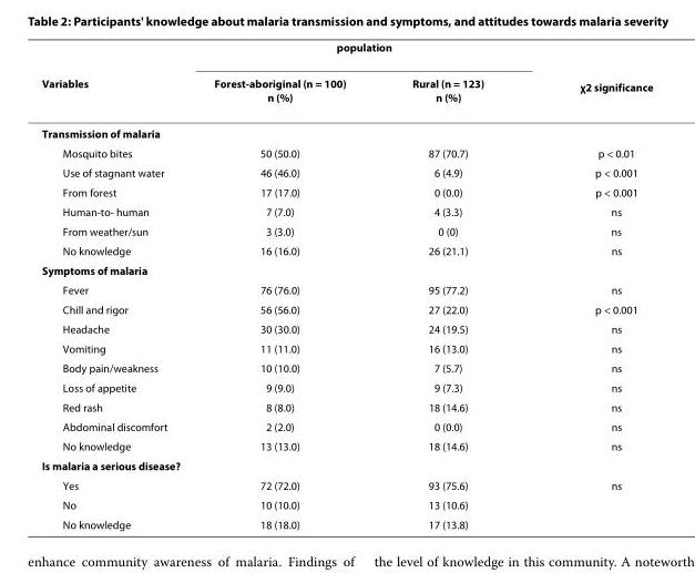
<table><thead><tr><td rowspan="2">Variables</td><td colspan="2">population</td><td rowspan="2">χ<sup>2</sup> significance</td></tr><tr><td>Forest-aboriginal (n = 100) n (%)</td><td>Rural (n = 123) n (%)</td></tr></thead><tbody><tr><td colspan="4">Transmission of malaria</td></tr><tr><td>Mosquito bites</td><td>50 (50.0)</td><td>87 (70.7)</td><td>p &lt; 0.01</td></tr><tr><td>Use of stagnant water</td><td>46 (46.0)</td><td>6 (4.9)</td><td>p &lt; 0.001</td></tr><tr><td>From forest</td><td>17 (17.0)</td><td>0 (0.0)</td><td>p &lt; 0.001</td></tr><tr><td>Human-to- human</td><td>7 (7.0)</td><td>4 (3.3)</td><td>ns</td></tr><tr><td>From weather/sun</td><td>3 (3.0)</td><td>0 (0)</td><td>ns</td></tr><tr><td>No knowledge</td><td>16 (16.0)</td><td>26 (21.1)</td><td>ns</td></tr><tr><td colspan="4">Symptoms of malaria</td></tr><tr><td>Fever</td><td>76 (76.0)</td><td>95 (77.2)</td><td>ns</td></tr><tr><td>Chill and rigor</td><td>56 (56.0)</td><td>27 (22.0)</td><td>p &lt; 0.001</td></tr><tr><td>Headache</td><td>30 (30.0)</td><td>24 (19.5)</td><td>ns</td></tr><tr><td>Vomiting</td><td>11 (11.0)</td><td>16 (13.0)</td><td>ns</td></tr><tr><td>Body pain/weakness</td><td>10 (10.0)</td><td>7 (5.7)</td><td>ns</td></tr><tr><td>Loss of appetite</td><td>9 (9.0)</td><td>9 (7.3)</td><td>ns</td></tr><tr><td>Red rash</td><td>8 (8.0)</td><td>18 (14.6)</td><td>ns</td></tr><tr><td>Abdominal discomfort</td><td>2 (2.0)</td><td>0 (0.0)</td><td>ns</td></tr><tr><td>No knowledge</td><td>13 (13.0)</td><td>18 (14.6)</td><td>ns</td></tr><tr><td colspan="4">Is malaria a serious disease?</td></tr><tr><td>Yes</td><td>72 (72.0)</td><td>93 (75.6)</td><td>ns</td></tr><tr><td>No</td><td>10 (10.0)</td><td>13 (10.6)</td><td></td></tr><tr><td>No knowledge</td><td>18 (18.0)</td><td>17 (13.8)</td><td></td></tr></tbody></table>